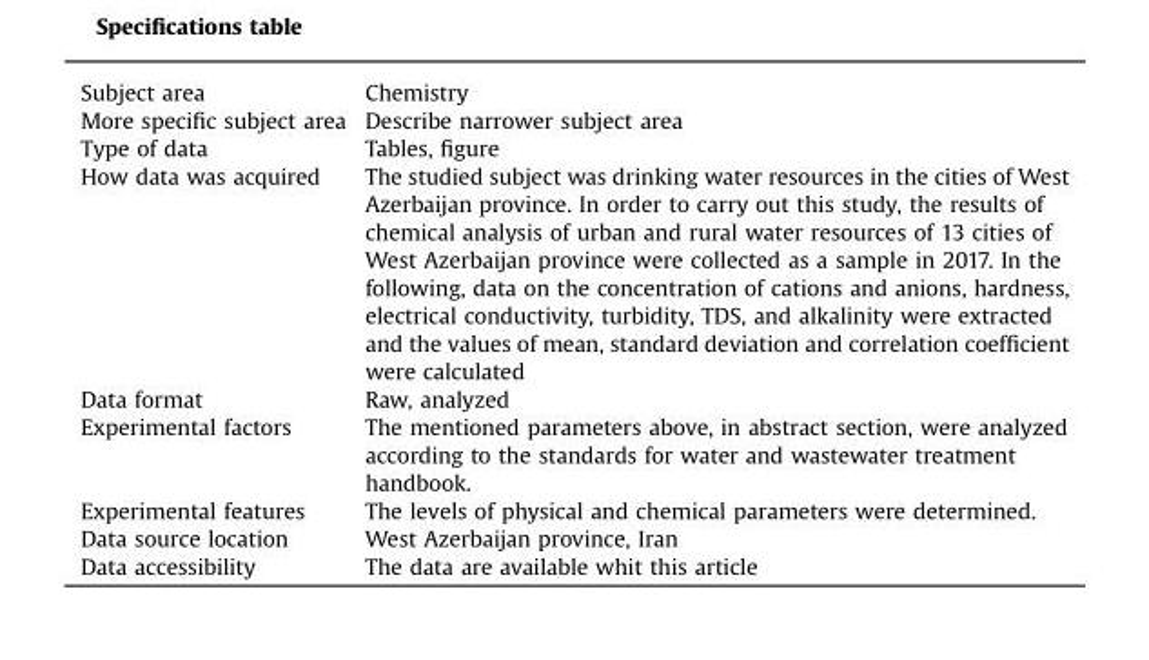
<table><tbody><tr><td>Subject area</td><td>Chemistry</td></tr><tr><td>More specific subject area</td><td>Describe narrower subject area</td></tr><tr><td>Type of data</td><td>Tables, figure</td></tr><tr><td>How data was acquired</td><td>The studied subject was drinking water resources in the cities of West Azerbaijan province. In order to carry out this study, the results of chemical analysis of urban and rural water resources of 13 cities of West Azerbaijan province were collected as a sample in 2017. In the following, data on the concentration of cations and anions, hardness, electrical conductivity, turbidity, TDS, and alkalinity were extracted and the values of mean, standard deviation and correlation coefficient were calculated</td></tr><tr><td>Data format</td><td>Raw, analyzed</td></tr><tr><td>Experimental factors</td><td>The mentioned parameters above, in abstract section, were analyzed according to the standards for water and wastewater treatment handbook.</td></tr><tr><td>Experimental features</td><td>The levels of physical and chemical parameters were determined.</td></tr><tr><td>Data source location</td><td>West Azerbaijan province, Iran</td></tr><tr><td>Data accessibility</td><td>The data are available whit this article</td></tr></tbody></table>